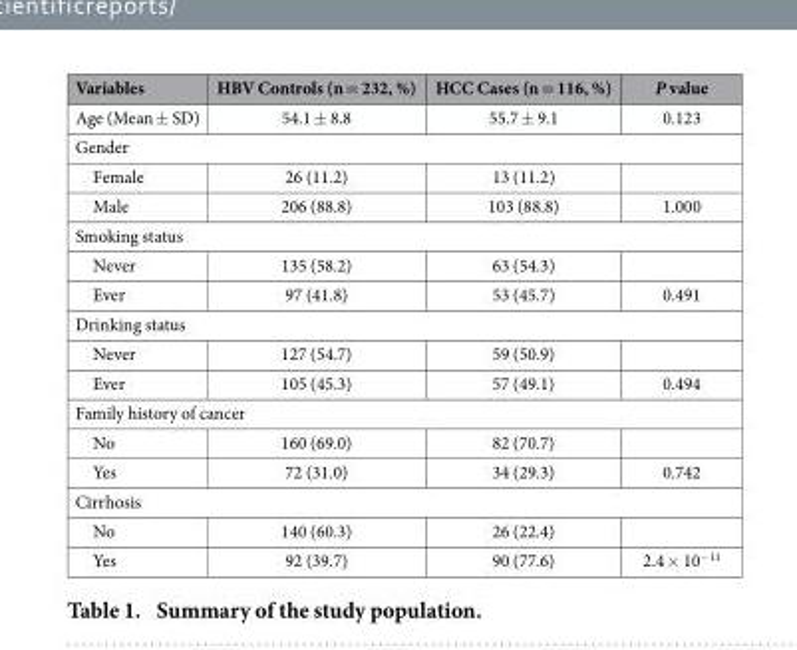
<table><thead><tr><td>Variables</td><td>HBV Controls (n = 232, %)</td><td>HCC Cases (n = 116, %)</td><td>P value</td></tr></thead><tbody><tr><td>Age (Mean ± SD)</td><td>54.1 ± 8.8</td><td>55.7 ± 9.1</td><td>0.123</td></tr><tr><td colspan="4">Gender</td></tr><tr><td>Female</td><td>26 (11.2)</td><td>13 (11.2)</td><td></td></tr><tr><td>Male</td><td>206 (88.8)</td><td>103 (88.8)</td><td>1.000</td></tr><tr><td colspan="4">Smoking status</td></tr><tr><td>Never</td><td>135 (58.2)</td><td>63 (54.3)</td><td></td></tr><tr><td>Ever</td><td>97 (41.8)</td><td>53 (45.7)</td><td>0.491</td></tr><tr><td colspan="4">Drinking status</td></tr><tr><td>Never</td><td>127 (54.7)</td><td>59 (50.9)</td><td></td></tr><tr><td>Ever</td><td>105 (45.3)</td><td>57 (49.1)</td><td>0.494</td></tr><tr><td colspan="4">Family history of cancer</td></tr><tr><td>No</td><td>160 (69.0)</td><td>82 (70.7)</td><td></td></tr><tr><td>Yes</td><td>72 (31.0)</td><td>34 (29.3)</td><td>0.742</td></tr><tr><td colspan="4">Cirrhosis</td></tr><tr><td>No</td><td>140 (60.3)</td><td>26 (22.4)</td><td></td></tr><tr><td>Yes</td><td>92 (39.7)</td><td>90 (77.6)</td><td>2.4 × 10<sup>−11</sup></td></tr></tbody></table>